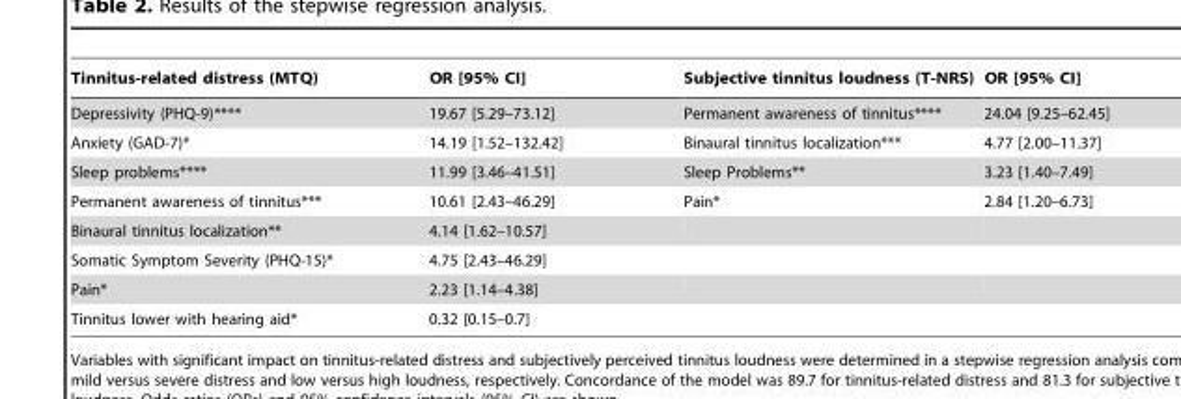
<table><thead><tr><td>Tinnitus-related distress (MTQ)</td><td>OR [95% CI]</td><td>Subjective tinnitus loudness (T-NRS)</td><td>OR [95% CI]</td></tr></thead><tbody><tr><td>Depressivity (PHQ-9)****</td><td>19.67 [5.29–73.12]</td><td>Permanent awareness of tinnitus****</td><td>24.04 [9.25–62.45]</td></tr><tr><td>Anxiety (GAD-7)*</td><td>14.19 [1.52–132.42]</td><td>Binaural tinnitus localization***</td><td>4.77 [2.00–11.37]</td></tr><tr><td>Sleep problems****</td><td>11.99 [3.46–41.51]</td><td>Sleep Problems**</td><td>3.23 [1.40–7.49]</td></tr><tr><td>Permanent awareness of tinnitus***</td><td>10.61 [2.43–46.29]</td><td>Pain*</td><td>2.84 [1.20–6.73]</td></tr><tr><td>Binaural tinnitus localization**</td><td>4.14 [1.62–10.57]</td><td></td><td></td></tr><tr><td>Somatic Symptom Severity (PHQ-15)*</td><td>4.75 [2.43–46.29]</td><td></td><td></td></tr><tr><td>Pain*</td><td>2.23 [1.14–4.38]</td><td></td><td></td></tr><tr><td>Tinnitus lower with hearing aid*</td><td>0.32 [0.15–0.7]</td><td></td><td></td></tr></tbody></table>